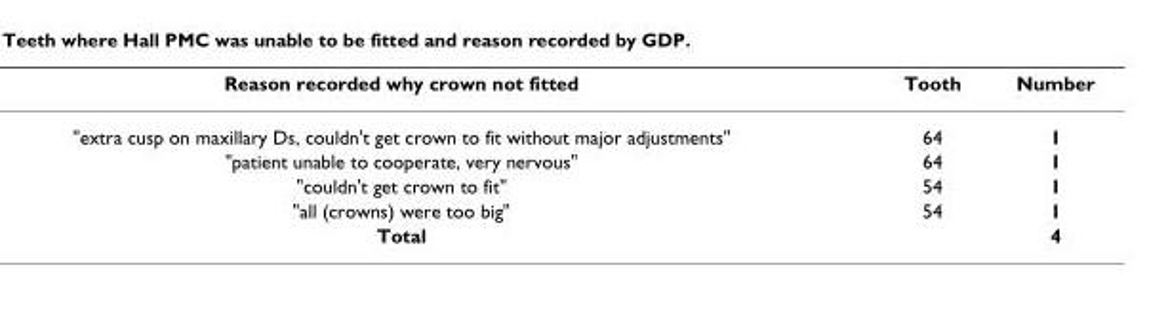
<table><thead><tr><td>Reason recorded why crown not fitted</td><td>Tooth</td><td>Number</td></tr></thead><tbody><tr><td>&quot;extra cusp on maxillary Ds, couldn&#x27;t get crown to fit without major adjustments&quot;</td><td>64</td><td>1</td></tr><tr><td>&quot;patient unable to cooperate, very nervous&quot;</td><td>64</td><td>1</td></tr><tr><td>&quot;couldn&#x27;t get crown to fit&quot;</td><td>54</td><td>1</td></tr><tr><td>&quot;all (crowns) were too big&quot;</td><td>54</td><td>1</td></tr><tr><td>Total</td><td></td><td>4</td></tr></tbody></table>